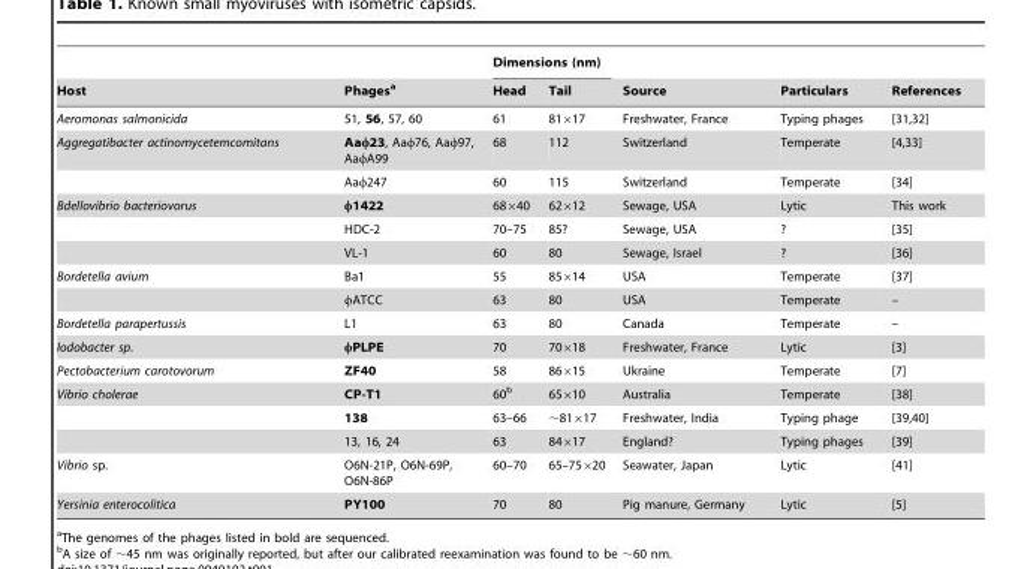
<table><thead><tr><td rowspan="2">Host</td><td rowspan="2">Phages<sup>a</sup></td><td colspan="2">Dimensions (nm)</td><td rowspan="2">Source</td><td rowspan="2">Particulars</td><td rowspan="2">References</td></tr><tr><td>Head</td><td>Tail</td></tr></thead><tbody><tr><td>Aeromonas salmonicida</td><td>51, 56, 57, 60</td><td>61</td><td>81×17</td><td>Freshwater, France</td><td>Typing phages</td><td>[31,32]</td></tr><tr><td rowspan="2">Aggregatibacter actinomycetemcomitans</td><td>Aaφ23, Aaφ76, Aaφ97, AaφA99</td><td>68</td><td>112</td><td>Switzerland</td><td>Temperate</td><td>[4,33]</td></tr><tr><td>Aaφ247</td><td>60</td><td>115</td><td>Switzerland</td><td>Temperate</td><td>[34]</td></tr><tr><td rowspan="3">Bdellovibrio bacteriovorus</td><td>φ1422</td><td>68×40</td><td>62×12</td><td>Sewage, USA</td><td>Lytic</td><td>This work</td></tr><tr><td>HDC-2</td><td>70–75</td><td>85?</td><td>Sewage, USA</td><td>?</td><td>[35]</td></tr><tr><td>VL-1</td><td>60</td><td>80</td><td>Sewage, Israel</td><td>?</td><td>[36]</td></tr><tr><td rowspan="2">Bordetella avium</td><td>Ba1</td><td>55</td><td>85×14</td><td>USA</td><td>Temperate</td><td>[37]</td></tr><tr><td>φATCC</td><td>63</td><td>80</td><td>USA</td><td>Temperate</td><td>–</td></tr><tr><td>Bordetella parapertussis</td><td>L1</td><td>63</td><td>80</td><td>Canada</td><td>Temperate</td><td>–</td></tr><tr><td>Iodobacter sp.</td><td>φPLPE</td><td>70</td><td>70×18</td><td>Freshwater, France</td><td>Lytic</td><td>[3]</td></tr><tr><td>Pectobacterium carotovorum</td><td>ZF40</td><td>58</td><td>86×15</td><td>Ukraine</td><td>Temperate</td><td>[7]</td></tr><tr><td rowspan="3">Vibrio cholerae</td><td>CP-T1</td><td>60<sup>b</sup></td><td>65×10</td><td>Australia</td><td>Temperate</td><td>[38]</td></tr><tr><td>138</td><td>63–66</td><td>∼81×17</td><td>Freshwater, India</td><td>Typing phage</td><td>[39,40]</td></tr><tr><td>13, 16, 24</td><td>63</td><td>84×17</td><td>England?</td><td>Typing phages</td><td>[39]</td></tr><tr><td>Vibrio sp.</td><td>O6N-21P, O6N-69P, O6N-86P</td><td>60–70</td><td>65–75×20</td><td>Seawater, Japan</td><td>Lytic</td><td>[41]</td></tr><tr><td>Yersinia enterocolitica</td><td>PY100</td><td>70</td><td>80</td><td>Pig manure, Germany</td><td>Lytic</td><td>[5]</td></tr></tbody></table>